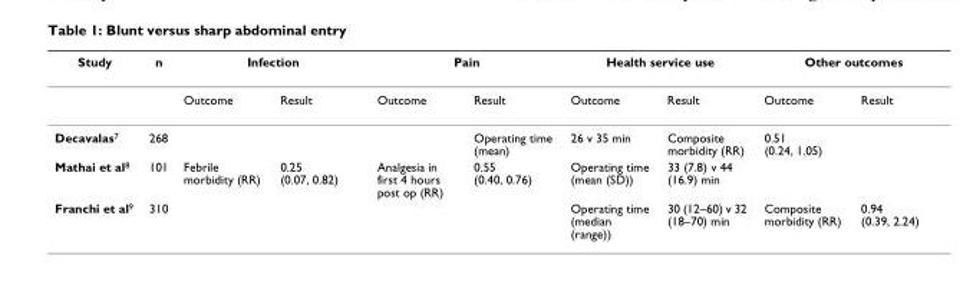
<table><thead><tr><td rowspan="2">Study</td><td rowspan="2">n</td><td colspan="2">Infection</td><td colspan="2">Pain</td><td colspan="2">Health service use</td><td colspan="2">Other outcomes</td></tr><tr><td>Outcome</td><td>Result</td><td>Outcome</td><td>Result</td><td>Outcome</td><td>Result</td><td>Outcome</td><td>Result</td></tr></thead><tbody><tr><td>Decavalas<sup>7</sup></td><td>268</td><td></td><td></td><td></td><td>Operating time (mean)</td><td>26 v 35 min</td><td>Composite morbidity (RR)</td><td>0.51 (0.24, 1.05)</td><td></td></tr><tr><td>Mathai et al<sup>8</sup></td><td>101</td><td>Febrile morbidity (RR)</td><td>0.25 (0.07, 0.82)</td><td>Analgesia in first 4 hours post op (RR)</td><td>0.55 (0.40, 0.76)</td><td>Operating time (mean (SD))</td><td>33 (7.8) v 44 (16.9) min</td><td></td><td></td></tr><tr><td>Franchi et al<sup>9</sup></td><td>310</td><td></td><td></td><td></td><td></td><td>Operating time (median (range))</td><td>30 (12–60) v 32 (18–70) min</td><td>Composite morbidity (RR)</td><td>0.94 (0.39, 2.24)</td></tr></tbody></table>